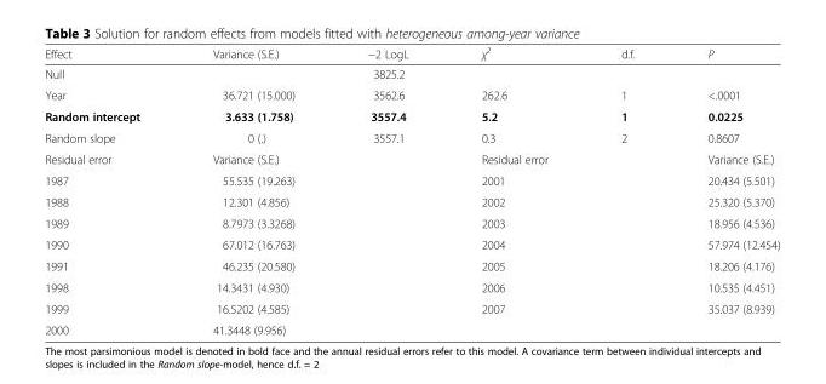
<table><thead><tr><td>Effect</td><td>Variance (S.E.)</td><td>−2 LogL</td><td>χ<sup>2</sup></td><td>d.f.</td><td>P</td></tr></thead><tbody><tr><td>Null</td><td></td><td>3825.2</td><td></td><td></td><td></td></tr><tr><td>Year</td><td>36.721 (15.000)</td><td>3562.6</td><td>262.6</td><td>1</td><td>&lt;.0001</td></tr><tr><td>Random intercept</td><td>3.633 (1.758)</td><td>3557.4</td><td>5.2</td><td>1</td><td>0.0225</td></tr><tr><td>Random slope</td><td>0 (.)</td><td>3557.1</td><td>0.3</td><td>2</td><td>0.8607</td></tr><tr><td>Residual error</td><td>Variance (S.E.)</td><td></td><td>Residual error</td><td></td><td>Variance (S.E.)</td></tr><tr><td>1987</td><td>55.535 (19.263)</td><td></td><td>2001</td><td></td><td>20.434 (5.501)</td></tr><tr><td>1988</td><td>12.301 (4.856)</td><td></td><td>2002</td><td></td><td>25.320 (5.370)</td></tr><tr><td>1989</td><td>8.7973 (3.3268)</td><td></td><td>2003</td><td></td><td>18.956 (4.536)</td></tr><tr><td>1990</td><td>67.012 (16.763)</td><td></td><td>2004</td><td></td><td>57.974 (12.454)</td></tr><tr><td>1991</td><td>46.235 (20.580)</td><td></td><td>2005</td><td></td><td>18.206 (4.176)</td></tr><tr><td>1998</td><td>14.3431 (4.930)</td><td></td><td>2006</td><td></td><td>10.535 (4.451)</td></tr><tr><td>1999</td><td>16.5202 (4.585)</td><td></td><td>2007</td><td></td><td>35.037 (8.939)</td></tr><tr><td>2000</td><td>41.3448 (9.956)</td><td></td><td></td><td></td><td></td></tr></tbody></table>